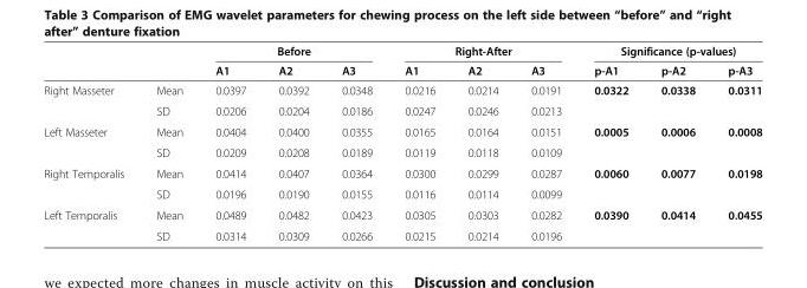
<table><thead><tr><td rowspan="2"></td><td rowspan="2"></td><td colspan="3">Before</td><td colspan="3">Right-After</td><td colspan="3">Significance (p-values)</td></tr><tr><td>A1</td><td>A2</td><td>A3</td><td>A1</td><td>A2</td><td>A3</td><td>p-A1</td><td>p-A2</td><td>p-A3</td></tr></thead><tbody><tr><td rowspan="2">Right Masseter</td><td>Mean</td><td>0.0397</td><td>0.0392</td><td>0.0348</td><td>0.0216</td><td>0.0214</td><td>0.0191</td><td rowspan="2">0.0322</td><td rowspan="2">0.0338</td><td rowspan="2">0.0311</td></tr><tr><td>SD</td><td>0.0206</td><td>0.0204</td><td>0.0186</td><td>0.0247</td><td>0.0246</td><td>0.0213</td></tr><tr><td rowspan="2">Left Masseter</td><td>Mean</td><td>0.0404</td><td>0.0400</td><td>0.0355</td><td>0.0165</td><td>0.0164</td><td>0.0151</td><td rowspan="2">0.0005</td><td rowspan="2">0.0006</td><td rowspan="2">0.0008</td></tr><tr><td>SD</td><td>0.0209</td><td>0.0208</td><td>0.0189</td><td>0.0119</td><td>0.0118</td><td>0.0109</td></tr><tr><td rowspan="2">Right Temporalis</td><td>Mean</td><td>0.0414</td><td>0.0407</td><td>0.0364</td><td>0.0300</td><td>0.0299</td><td>0.0287</td><td rowspan="2">0.0060</td><td rowspan="2">0.0077</td><td rowspan="2">0.0198</td></tr><tr><td>SD</td><td>0.0196</td><td>0.0190</td><td>0.0155</td><td>0.0116</td><td>0.0114</td><td>0.0099</td></tr><tr><td rowspan="2">Left Temporalis</td><td>Mean</td><td>0.0489</td><td>0.0482</td><td>0.0423</td><td>0.0305</td><td>0.0303</td><td>0.0282</td><td>0.0390</td><td>0.0414</td><td>0.0455</td></tr><tr><td>SD</td><td>0.0314</td><td>0.0309</td><td>0.0266</td><td>0.0215</td><td>0.0214</td><td>0.0196</td><td></td><td></td><td></td></tr></tbody></table>